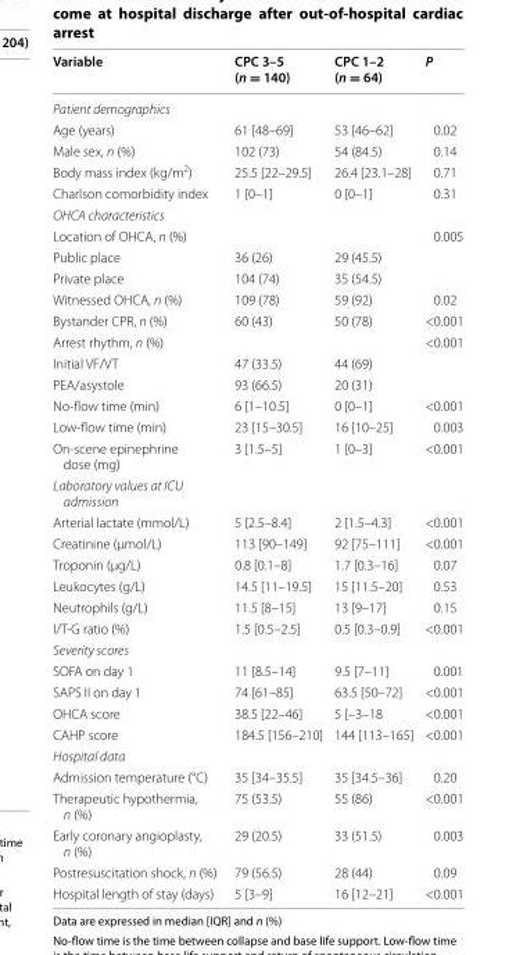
<table><thead><tr><td>Variable</td><td>CPC 3–5 (n = 140)</td><td>CPC 1–2 (n = 64)</td><td>P</td></tr></thead><tbody><tr><td colspan="4">Patient demographics</td></tr><tr><td>Age (years)</td><td>61 [48–69]</td><td>53 [46–62]</td><td>0.02</td></tr><tr><td>Male sex, n (%)</td><td>102 (73)</td><td>54 (84.5)</td><td>0.14</td></tr><tr><td>Body mass index (kg/m<sup>2</sup>)</td><td>25.5 [22–29.5]</td><td>26.4 [23.1–28]</td><td>0.71</td></tr><tr><td>Charlson comorbidity index</td><td>1 [0–1]</td><td>0 [0–1]</td><td>0.31</td></tr><tr><td colspan="4">OHCA characteristics</td></tr><tr><td>Location of OHCA, n (%)</td><td></td><td></td><td>0.005</td></tr><tr><td>Public place</td><td>36 (26)</td><td>29 (45.5)</td><td></td></tr><tr><td>Private place</td><td>104 (74)</td><td>35 (54.5)</td><td></td></tr><tr><td>Witnessed OHCA, n (%)</td><td>109 (78)</td><td>59 (92)</td><td>0.02</td></tr><tr><td>Bystander CPR, n (%)</td><td>60 (43)</td><td>50 (78)</td><td>&lt;0.001</td></tr><tr><td>Arrest rhythm, n (%)</td><td></td><td></td><td>&lt;0.001</td></tr><tr><td>Initial VF/VT</td><td>47 (33.5)</td><td>44 (69)</td><td></td></tr><tr><td>PEA/asystole</td><td>93 (66.5)</td><td>20 (31)</td><td></td></tr><tr><td>No‑flow time (min)</td><td>6 [1–10.5]</td><td>0 [0–1]</td><td>&lt;0.001</td></tr><tr><td>Low‑flow time (min)</td><td>23 [15–30.5]</td><td>16 [10–25]</td><td>0.003</td></tr><tr><td>On‑scene epinephrine dose (mg)</td><td>3 [1.5–5]</td><td>1 [0–3]</td><td>&lt;0.001</td></tr><tr><td colspan="4">Laboratory values at ICU admission</td></tr><tr><td>Arterial lactate (mmol/L)</td><td>5 [2.5–8.4]</td><td>2 [1.5–4.3]</td><td>&lt;0.001</td></tr><tr><td>Creatinine (µmol/L)</td><td>113 [90–149]</td><td>92 [75–111]</td><td>&lt;0.001</td></tr><tr><td>Troponin (µg/L)</td><td>0.8 [0.1–8]</td><td>1.7 [0.3–16]</td><td>0.07</td></tr><tr><td>Leukocytes (g/L)</td><td>14.5 [11–19.5]</td><td>15 [11.5–20]</td><td>0.53</td></tr><tr><td>Neutrophils (g/L)</td><td>11.5 [8–15]</td><td>13 [9–17]</td><td>0.15</td></tr><tr><td>I/T‑G ratio (%)</td><td>1.5 [0.5–2.5]</td><td>0.5 [0.3–0.9]</td><td>&lt;0.001</td></tr><tr><td colspan="4">Severity scores</td></tr><tr><td>SOFA on day 1</td><td>11 [8.5–14]</td><td>9.5 [7–11]</td><td>0.001</td></tr><tr><td>SAPS II on day 1</td><td>74 [61–85]</td><td>63.5 [50–72]</td><td>&lt;0.001</td></tr><tr><td>OHCA score</td><td>38.5 [22–46]</td><td>5 [–3–18</td><td>&lt;0.001</td></tr><tr><td>CAHP score</td><td>184.5 [156–210]</td><td>144 [113–165]</td><td>&lt;0.001</td></tr><tr><td colspan="4">Hospital data</td></tr><tr><td>Admission temperature (°C)</td><td>35 [34–35.5]</td><td>35 [34.5–36]</td><td>0.20</td></tr><tr><td>Therapeutic hypothermia, n (%)</td><td>75 (53.5)</td><td>55 (86)</td><td>&lt;0.001</td></tr><tr><td>Early coronary angioplasty, n (%)</td><td>29 (20.5)</td><td>33 (51.5)</td><td>0.003</td></tr><tr><td>Postresuscitation shock, n (%)</td><td>79 (56.5)</td><td>28 (44)</td><td>0.09</td></tr><tr><td>Hospital length of stay (days)</td><td>5 [3–9]</td><td>16 [12–21]</td><td>&lt;0.001</td></tr></tbody></table>